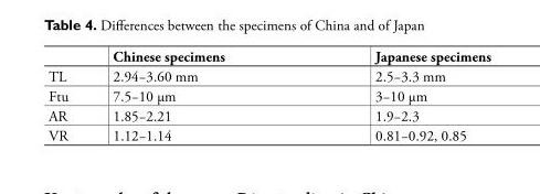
<table><thead><tr><td></td><td>Chinese specimens</td><td>Japanese specimens</td></tr></thead><tbody><tr><td>TL</td><td>2.94−3.60 mm</td><td>2.5−3.3 mm</td></tr><tr><td>Ftu</td><td>7.5−10 µm</td><td>3−10 µm</td></tr><tr><td>AR</td><td>1.85−2.21</td><td>1.9−2.3</td></tr><tr><td>VR</td><td>1.12−1.14</td><td>0.81−0.92, 0.85</td></tr></tbody></table>